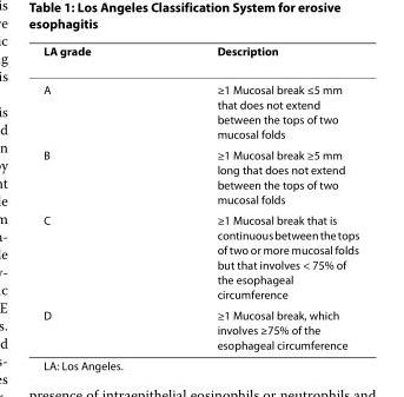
<table><thead><tr><td>LA grade</td><td>Description</td></tr></thead><tbody><tr><td>A</td><td>≥1 Mucosal break ≤5 mm that does not extend between the tops of two mucosal folds</td></tr><tr><td>B</td><td>≥1 Mucosal break ≥5 mm long that does not extend between the tops of two mucosal folds</td></tr><tr><td>C</td><td>≥1 Mucosal break that is continuous between the tops of two or more mucosal folds but that involves &lt; 75% of the esophageal circumference</td></tr><tr><td>D</td><td>≥1 Mucosal break, which involves ≥75% of the esophageal circumference</td></tr></tbody></table>